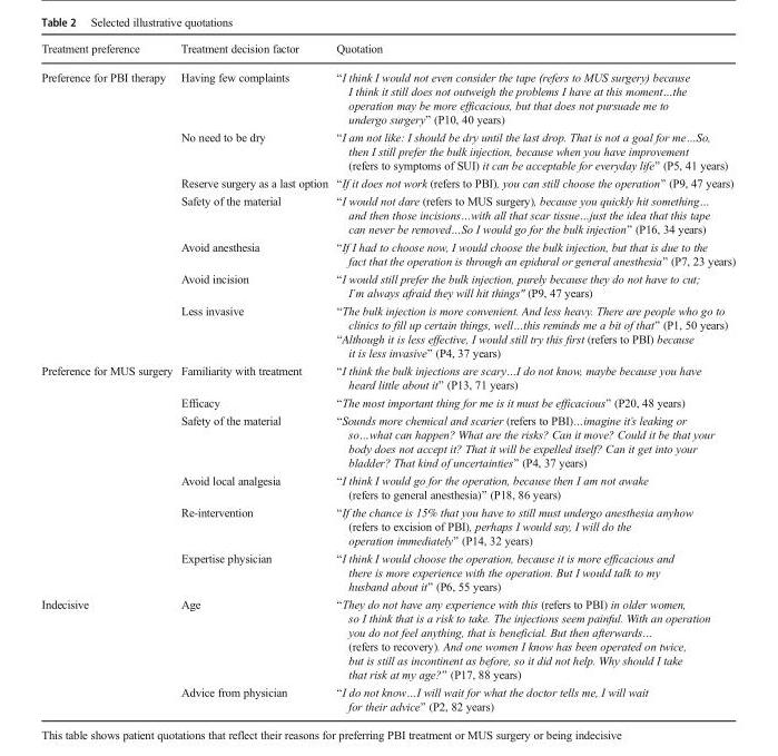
<table><thead><tr><td>Treatment preference</td><td>Treatment decision factor</td><td>Quotation</td></tr></thead><tbody><tr><td rowspan="7">Preference for PBI therapy</td><td>Having few complaints</td><td>“I think I would not even consider the tape (refers to MUS surgery) because I think it still does not outweigh the problems I have at this moment…the operation may be more efficacious, but that does not pursuade me to undergo surgery” (P10, 40 years)</td></tr><tr><td>No need to be dry</td><td>“I am not like: I should be dry until the last drop. That is not a goal for me…So, then I still prefer the bulk injection, because when you have improvement (refers to symptoms of SUI) it can be acceptable for everyday life” (P5, 41 years)</td></tr><tr><td>Reserve surgery as a last option</td><td>“If it does not work (refers to PBI), you can still choose the operation” (P9, 47 years)</td></tr><tr><td>Safety of the material</td><td>“I would not dare (refers to MUS surgery), because you quickly hit something… and then those incisions…with all that scar tissue…just the idea that this tape can never be removed…So I would go for the bulk injection” (P16, 34 years)</td></tr><tr><td>Avoid anesthesia</td><td>“If I had to choose now, I would choose the bulk injection, but that is due to the fact that the operation is through an epidural or general anesthesia” (P7, 23 years)</td></tr><tr><td>Avoid incision</td><td>“I would still prefer the bulk injection, purely because they do not have to cut; I’m always afraid they will hit things&quot; (P9, 47 years)</td></tr><tr><td>Less invasive</td><td>“The bulk injection is more convenient. And less heavy. There are people who go to clinics to fill up certain things, well…this reminds me a bit of that” (P1, 50 years) “Although it is less effective, I would still try this first (refers to PBI) because it is less invasive” (P4, 37 years)</td></tr><tr><td rowspan="6">Preference for MUS surgery</td><td>Familiarity with treatment</td><td>“I think the bulk injections are scary…I do not know, maybe because you have heard little about it” (P13, 71 years)</td></tr><tr><td>Efficacy</td><td>“The most important thing for me is it must be efficacious” (P20, 48 years)</td></tr><tr><td>Safety of the material</td><td>“Sounds more chemical and scarier (refers to PBI)…imagine it’s leaking or so…what can happen? What are the risks? Can it move? Could it be that your body does not accept it? That it will be expelled itself? Can it get into your bladder? That kind of uncertainties” (P4, 37 years)</td></tr><tr><td>Avoid local analgesia</td><td>“I think I would go for the operation, because then I am not awake (refers to general anesthesia)” (P18, 86 years)</td></tr><tr><td>Re-intervention</td><td>“If the chance is 15% that you have to still must undergo anesthesia anyhow (refers to excision of PBI), perhaps I would say, I will do the operation immediately” (P14, 32 years)</td></tr><tr><td>Expertise physician</td><td>“I think I would choose the operation, because it is more efficacious and there is more experience with the operation. But I would talk to my husband about it” (P6, 55 years)</td></tr><tr><td rowspan="2">Indecisive</td><td>Age</td><td>“They do not have any experience with this (refers to PBI) in older women, so I think that is a risk to take. The injections seem painful. With an operation you do not feel anything, that is beneficial. But then afterwards… (refers to recovery). And one women I know has been operated on twice, but is still as incontinent as before, so it did not help. Why should I take that risk at my age?” (P17, 88 years)</td></tr><tr><td>Advice from physician</td><td>“I do not know…I will wait for what the doctor tells me, I will wait for their advice” (P2, 82 years)</td></tr></tbody></table>